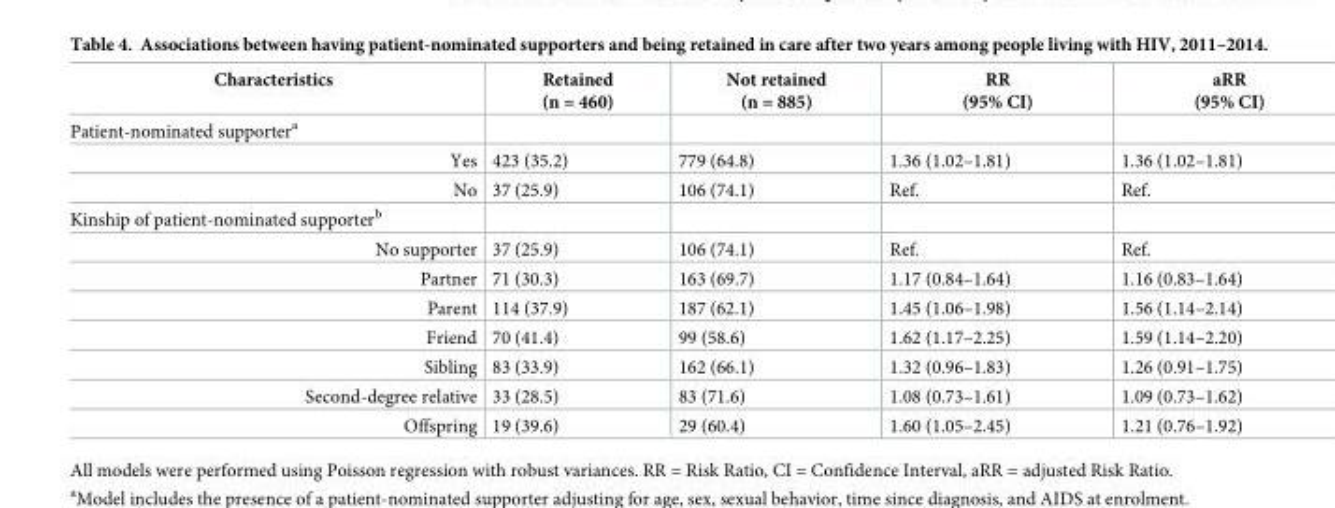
<table><thead><tr><td>Characteristics</td><td>Retained (n = 460)</td><td>Not retained (n = 885)</td><td>RR (95% CI)</td><td>aRR (95% CI)</td></tr></thead><tbody><tr><td colspan="5">Patient-nominated supporter<sup>a</sup></td></tr><tr><td>Yes</td><td>423 (35.2)</td><td>779 (64.8)</td><td>1.36 (1.02–1.81)</td><td>1.36 (1.02–1.81)</td></tr><tr><td>No</td><td>37 (25.9)</td><td>106 (74.1)</td><td>Ref.</td><td>Ref.</td></tr><tr><td colspan="5">Kinship of patient-nominated supporter<sup>b</sup></td></tr><tr><td>No supporter</td><td>37 (25.9)</td><td>106 (74.1)</td><td>Ref.</td><td>Ref.</td></tr><tr><td>Partner</td><td>71 (30.3)</td><td>163 (69.7)</td><td>1.17 (0.84–1.64)</td><td>1.16 (0.83–1.64)</td></tr><tr><td>Parent</td><td>114 (37.9)</td><td>187 (62.1)</td><td>1.45 (1.06–1.98)</td><td>1.56 (1.14–2.14)</td></tr><tr><td>Friend</td><td>70 (41.4)</td><td>99 (58.6)</td><td>1.62 (1.17–2.25)</td><td>1.59 (1.14–2.20)</td></tr><tr><td>Sibling</td><td>83 (33.9)</td><td>162 (66.1)</td><td>1.32 (0.96–1.83)</td><td>1.26 (0.91–1.75)</td></tr><tr><td>Second-degree relative</td><td>33 (28.5)</td><td>83 (71.6)</td><td>1.08 (0.73–1.61)</td><td>1.09 (0.73–1.62)</td></tr><tr><td>Offspring</td><td>19 (39.6)</td><td>29 (60.4)</td><td>1.60 (1.05–2.45)</td><td>1.21 (0.76–1.92)</td></tr></tbody></table>